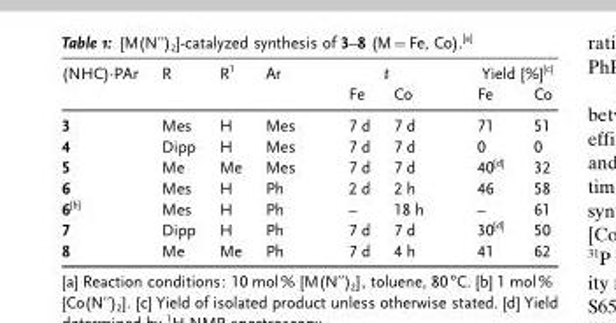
<table><thead><tr><td rowspan="2">(NHC)·PAr</td><td rowspan="2">R</td><td rowspan="2">R<sup>1</sup></td><td rowspan="2">Ar</td><td colspan="2">t</td><td colspan="2">Yield [%]<sup>[c]</sup></td></tr><tr><td>Fe</td><td>Co</td><td>Fe</td><td>Co</td></tr></thead><tbody><tr><td>3</td><td>Mes</td><td>H</td><td>Mes</td><td>7 d</td><td>7 d</td><td>71</td><td>51</td></tr><tr><td>4</td><td>Dipp</td><td>H</td><td>Mes</td><td>7 d</td><td>7 d</td><td>0</td><td>0</td></tr><tr><td>5</td><td>Me</td><td>Me</td><td>Mes</td><td>7 d</td><td>7 d</td><td>40<sup>[d]</sup></td><td>32</td></tr><tr><td>6</td><td>Mes</td><td>H</td><td>Ph</td><td>2 d</td><td>2 h</td><td>46</td><td>58</td></tr><tr><td>6<sup>[b]</sup></td><td>Mes</td><td>H</td><td>Ph</td><td>–</td><td>18 h</td><td>–</td><td>61</td></tr><tr><td>7</td><td>Dipp</td><td>H</td><td>Ph</td><td>7 d</td><td>7 d</td><td>30<sup>[d]</sup></td><td>50</td></tr><tr><td>8</td><td>Me</td><td>Me</td><td>Ph</td><td>7 d</td><td>4 h</td><td>41</td><td>62</td></tr></tbody></table>